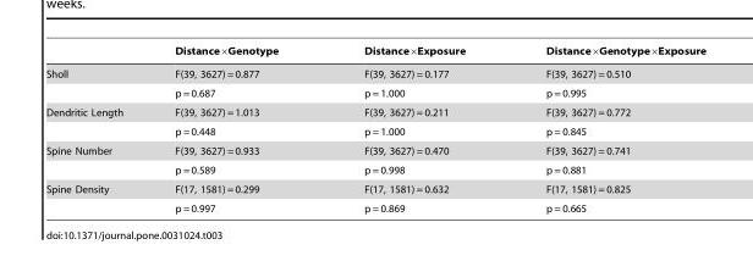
<table><thead><tr><td></td><td>Distance×Genotype</td><td>Distance×Exposure</td><td>Distance×Genotype×Exposure</td></tr></thead><tbody><tr><td rowspan="2">Sholl</td><td>F(39, 3627) = 0.877</td><td>F(39, 3627) = 0.177</td><td>F(39, 3627) = 0.510</td></tr><tr><td>p = 0.687</td><td>p = 1.000</td><td>p = 0.995</td></tr><tr><td rowspan="2">Dendritic Length</td><td>F(39, 3627) = 1.013</td><td>F(39, 3627) = 0.211</td><td>F(39, 3627) = 0.772</td></tr><tr><td>p = 0.448</td><td>p = 1.000</td><td>p = 0.845</td></tr><tr><td rowspan="2">Spine Number</td><td>F(39, 3627) = 0.933</td><td>F(39, 3627) = 0.470</td><td>F(39, 3627) = 0.741</td></tr><tr><td>p = 0.589</td><td>p = 0.998</td><td>p = 0.881</td></tr><tr><td rowspan="2">Spine Density</td><td>F(17, 1581) = 0.299</td><td>F(17, 1581) = 0.632</td><td>F(17, 1581) = 0.825</td></tr><tr><td>p = 0.997</td><td>p = 0.869</td><td>p = 0.665</td></tr></tbody></table>